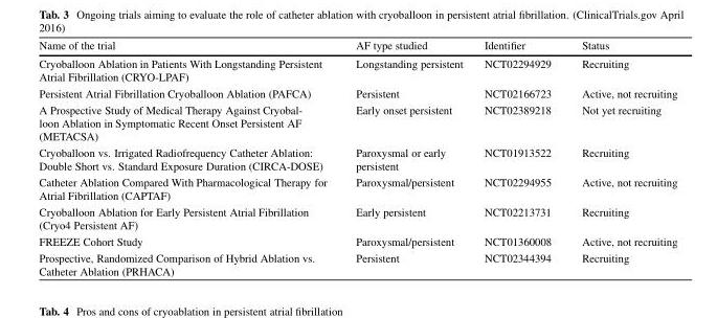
<table><thead><tr><td>Name of the trial</td><td>AF type studied</td><td>Identifier</td><td>Status</td></tr></thead><tbody><tr><td>Cryoballoon Ablation in Patients With Longstanding Persistent Atrial Fibrillation (CRYO-LPAF)</td><td>Longstanding persistent</td><td>NCT02294929</td><td>Recruiting</td></tr><tr><td>Persistent Atrial Fibrillation Cryoballoon Ablation (PAFCA)</td><td>Persistent</td><td>NCT02166723</td><td>Active, not recruiting</td></tr><tr><td>A Prospective Study of Medical Therapy Against Cryobal- loon Ablation in Symptomatic Recent Onset Persistent AF (METACSA)</td><td>Early onset persistent</td><td>NCT02389218</td><td>Not yet recruiting</td></tr><tr><td>Cryoballoon vs. Irrigated Radiofrequency Catheter Ablation: Double Short vs. Standard Exposure Duration (CIRCA-DOSE)</td><td>Paroxysmal or early persistent</td><td>NCT01913522</td><td>Recruiting</td></tr><tr><td>Catheter Ablation Compared With Pharmacological Therapy for Atrial Fibrillation (CAPTAF)</td><td>Paroxysmal/persistent</td><td>NCT02294955</td><td>Active, not recruiting</td></tr><tr><td>Cryoballoon Ablation for Early Persistent Atrial Fibrillation (Cryo4 Persistent AF)</td><td>Early persistent</td><td>NCT02213731</td><td>Recruiting</td></tr><tr><td>FREEZE Cohort Study</td><td>Paroxysmal/persistent</td><td>NCT01360008</td><td>Active, not recruiting</td></tr><tr><td>Prospective, Randomized Comparison of Hybrid Ablation vs. Catheter Ablation (PRHACA)</td><td>Persistent</td><td>NCT02344394</td><td>Recruiting</td></tr></tbody></table>